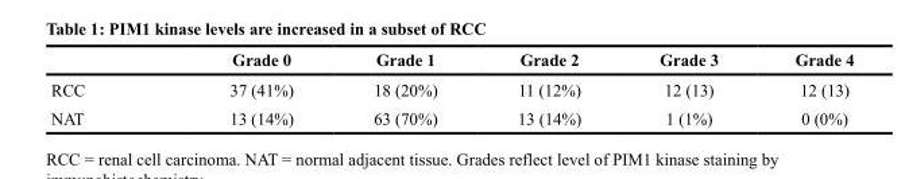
<table><thead><tr><td></td><td>Grade 0</td><td>Grade 1</td><td>Grade 2</td><td>Grade 3</td><td>Grade 4</td></tr></thead><tbody><tr><td>RCC</td><td>37 (41%)</td><td>18 (20%)</td><td>11 (12%)</td><td>12 (13)</td><td>12 (13)</td></tr><tr><td>NAT</td><td>13 (14%)</td><td>63 (70%)</td><td>13 (14%)</td><td>1 (1%)</td><td>0 (0%)</td></tr></tbody></table>